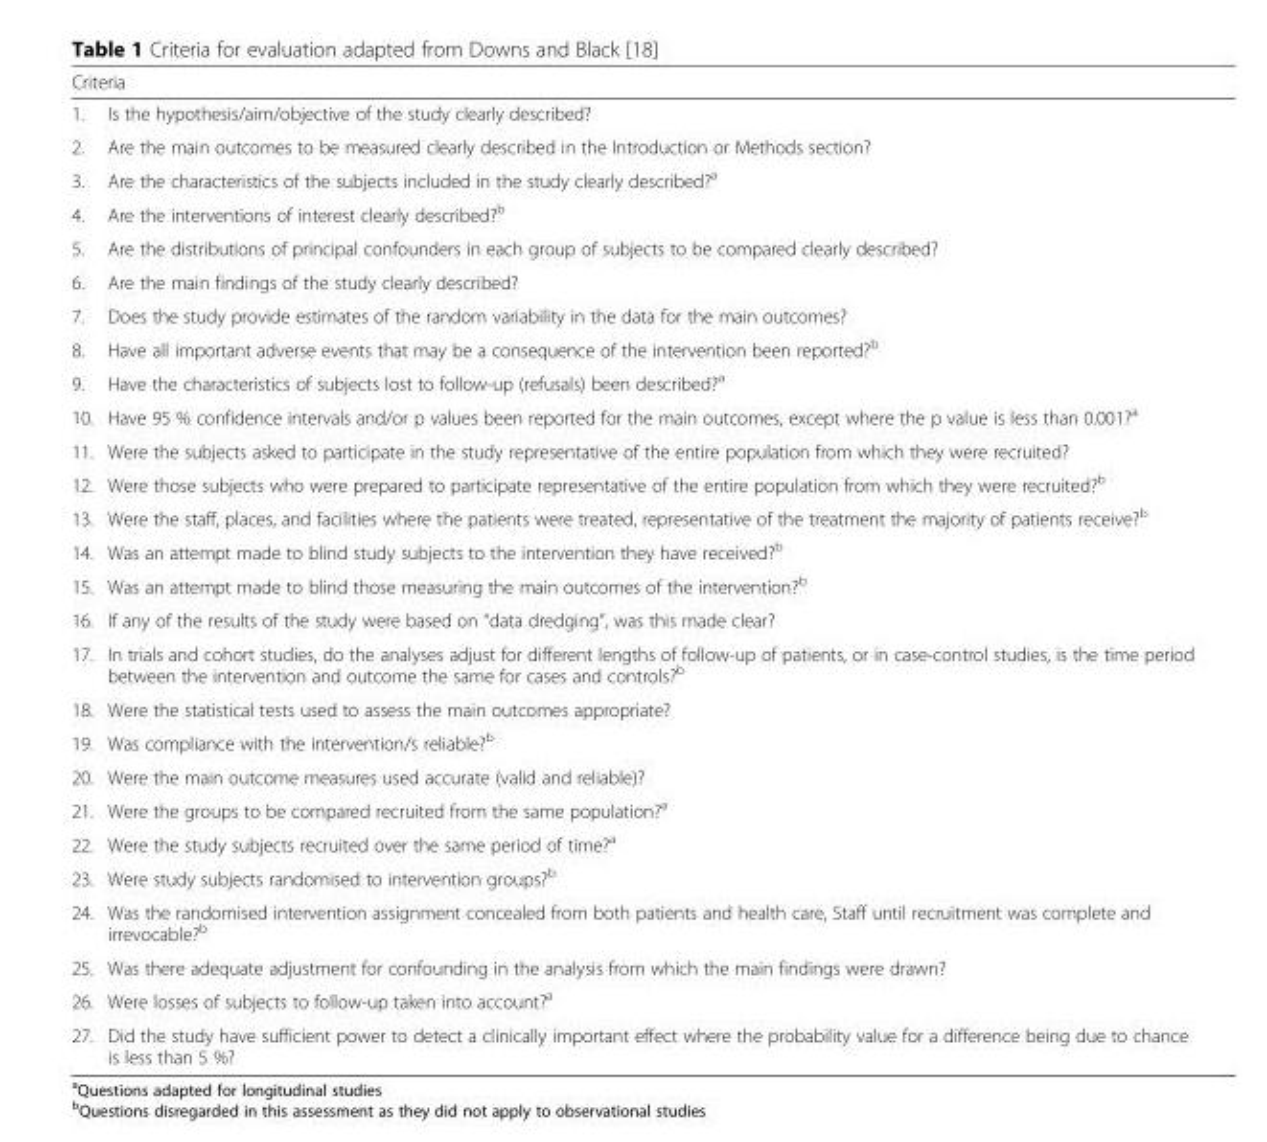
<table><thead><tr><td colspan="2">Criteria</td></tr><tr><td>1.</td><td>Is the hypothesis/aim/objective of the study clearly described?</td></tr></thead><tbody><tr><td>2.</td><td>Are the main outcomes to be measured clearly described in the Introduction or Methods section?</td></tr><tr><td>3.</td><td>Are the characteristics of the subjects included in the study clearly described?<sup>a</sup></td></tr><tr><td>4.</td><td>Are the interventions of interest clearly described?<sup>b</sup></td></tr><tr><td>5.</td><td>Are the distributions of principal confounders in each group of subjects to be compared clearly described?</td></tr><tr><td>6.</td><td>Are the main findings of the study clearly described?</td></tr><tr><td>7.</td><td>Does the study provide estimates of the random variability in the data for the main outcomes?</td></tr><tr><td>8.</td><td>Have all important adverse events that may be a consequence of the intervention been reported?<sup>b</sup></td></tr><tr><td>9.</td><td>Have the characteristics of subjects lost to follow-up (refusals) been described?<sup>a</sup></td></tr><tr><td>10.</td><td>Have 95 % confidence intervals and/or p values been reported for the main outcomes, except where the p value is less than 0.001?<sup>a</sup></td></tr><tr><td>11.</td><td>Were the subjects asked to participate in the study representative of the entire population from which they were recruited?</td></tr><tr><td>12.</td><td>Were those subjects who were prepared to participate representative of the entire population from which they were recruited?<sup>b</sup></td></tr><tr><td>13.</td><td>Were the staff, places, and facilities where the patients were treated, representative of the treatment the majority of patients receive?<sup>b</sup></td></tr><tr><td>14.</td><td>Was an attempt made to blind study subjects to the intervention they have received?<sup>b</sup></td></tr><tr><td>15.</td><td>Was an attempt made to blind those measuring the main outcomes of the intervention?<sup>b</sup></td></tr><tr><td>16.</td><td>If any of the results of the study were based on “data dredging”, was this made clear?</td></tr><tr><td>17.</td><td>In trials and cohort studies, do the analyses adjust for different lengths of follow-up of patients, or in case-control studies, is the time period between the intervention and outcome the same for cases and controls?<sup>b</sup></td></tr><tr><td>18.</td><td>Were the statistical tests used to assess the main outcomes appropriate?</td></tr><tr><td>19.</td><td>Was compliance with the intervention/s reliable?<sup>b</sup></td></tr><tr><td>20.</td><td>Were the main outcome measures used accurate (valid and reliable)?</td></tr><tr><td>21.</td><td>Were the groups to be compared recruited from the same population?<sup>a</sup></td></tr><tr><td>22.</td><td>Were the study subjects recruited over the same period of time?<sup>a</sup></td></tr><tr><td>23.</td><td>Were study subjects randomised to intervention groups?<sup>b</sup></td></tr><tr><td>24.</td><td>Was the randomised intervention assignment concealed from both patients and health care, Staff until recruitment was complete and irrevocable?<sup>b</sup></td></tr><tr><td>25.</td><td>Was there adequate adjustment for confounding in the analysis from which the main findings were drawn?</td></tr><tr><td>26.</td><td>Were losses of subjects to follow-up taken into account?<sup>a</sup></td></tr><tr><td>27.</td><td>Did the study have sufficient power to detect a clinically important effect where the probability value for a difference being due to chance is less than 5 %?</td></tr></tbody></table>